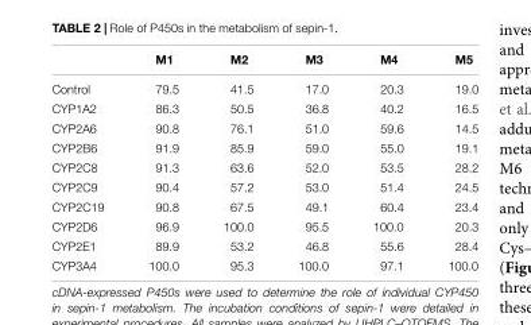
<table><thead><tr><td></td><td>M1</td><td>M2</td><td>M3</td><td>M4</td><td>M5</td></tr></thead><tbody><tr><td>Control</td><td>79.5</td><td>41.5</td><td>17.0</td><td>20.3</td><td>19.0</td></tr><tr><td>CYP1A2</td><td>86.3</td><td>50.5</td><td>36.8</td><td>40.2</td><td>16.5</td></tr><tr><td>CYP2A6</td><td>90.8</td><td>76.1</td><td>51.0</td><td>59.6</td><td>14.5</td></tr><tr><td>CYP2B6</td><td>91.9</td><td>85.9</td><td>59.0</td><td>55.0</td><td>19.1</td></tr><tr><td>CYP2C8</td><td>91.3</td><td>63.6</td><td>52.0</td><td>53.5</td><td>28.2</td></tr><tr><td>CYP2C9</td><td>90.4</td><td>57.2</td><td>53.0</td><td>51.4</td><td>24.5</td></tr><tr><td>CYP2C19</td><td>90.8</td><td>67.5</td><td>49.1</td><td>60.4</td><td>23.4</td></tr><tr><td>CYP2D6</td><td>96.9</td><td>100.0</td><td>95.5</td><td>100.0</td><td>20.3</td></tr><tr><td>CYP2E1</td><td>89.9</td><td>53.2</td><td>46.8</td><td>55.6</td><td>28.4</td></tr><tr><td>CYP3A4</td><td>100.0</td><td>95.3</td><td>100.0</td><td>97.1</td><td>100.0</td></tr></tbody></table>